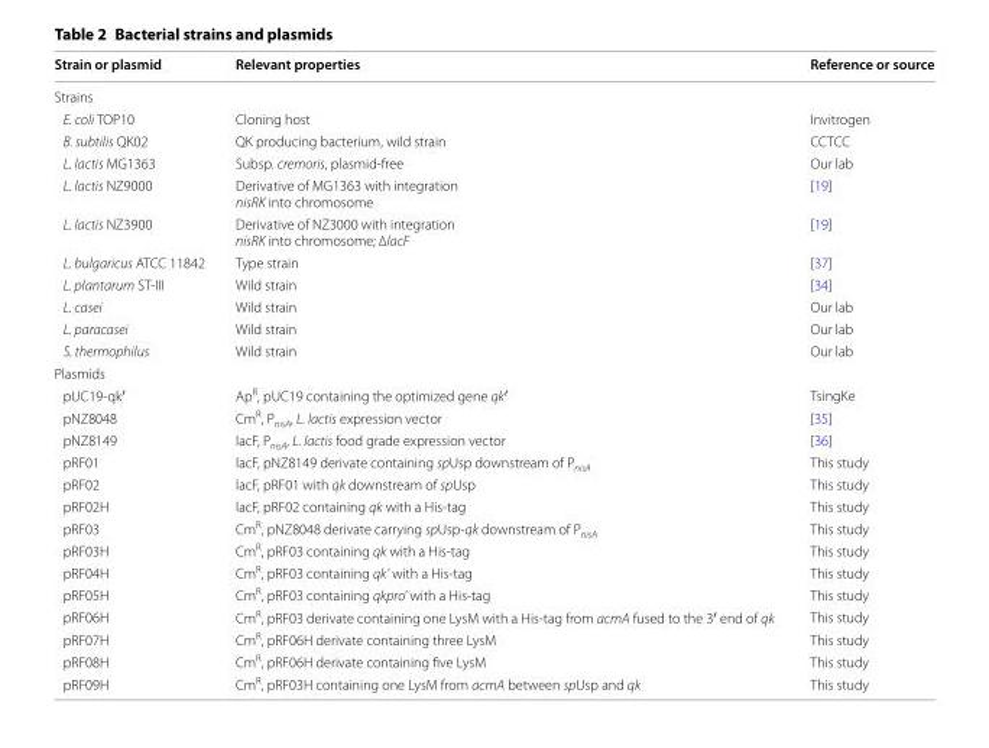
<table><thead><tr><td>Strain or plasmid</td><td>Relevant properties</td><td>Reference or source</td></tr></thead><tbody><tr><td colspan="3">Strains</td></tr><tr><td>E. coli TOP10</td><td>Cloning host</td><td>Invitrogen</td></tr><tr><td>B. subtilis QK02</td><td>QK producing bacterium, wild strain</td><td>CCTCC</td></tr><tr><td>L. lactis MG1363</td><td>Subsp. cremoris, plasmid-free</td><td>Our lab</td></tr><tr><td>L. lactis NZ9000</td><td>Derivative of MG1363 with integration nisRK into chromosome</td><td>[19]</td></tr><tr><td>L. lactis NZ3900</td><td>Derivative of NZ3000 with integration nisRK into chromosome; ∆lacF</td><td>[19]</td></tr><tr><td>L. bulgaricus ATCC 11842</td><td>Type strain</td><td>[37]</td></tr><tr><td>L. plantarum ST-III</td><td>Wild strain</td><td>[34]</td></tr><tr><td>L. casei</td><td>Wild strain</td><td>Our lab</td></tr><tr><td>L. paracasei</td><td>Wild strain</td><td>Our lab</td></tr><tr><td>S. thermophilus</td><td>Wild strain</td><td>Our lab</td></tr><tr><td colspan="3">Plasmids</td></tr><tr><td>pUC19-qk′</td><td>Ap<sup>R</sup>, pUC19 containing the optimized gene qk′</td><td>TsingKe</td></tr><tr><td>pNZ8048</td><td>Cm<sup>R</sup>, P<sub>nisA</sub>, L. lactis expression vector</td><td>[35]</td></tr><tr><td>pNZ8149</td><td>lacF, P<sub>nisA</sub>, L. lactis food grade expression vector</td><td>[36]</td></tr><tr><td>pRF01</td><td>lacF, pNZ8149 derivate containing spUsp downstream of P<sub>nisA</sub></td><td>This study</td></tr><tr><td>pRF02</td><td>lacF, pRF01 with qk downstream of spUsp</td><td>This study</td></tr><tr><td>pRF02H</td><td>lacF, pRF02 containing qk with a His-tag</td><td>This study</td></tr><tr><td>pRF03</td><td>Cm<sup>R</sup>, pNZ8048 derivate carrying spUsp-qk downstream of P<sub>nisA</sub></td><td>This study</td></tr><tr><td>pRF03H</td><td>Cm<sup>R</sup>, pRF03 containing qk with a His-tag</td><td>This study</td></tr><tr><td>pRF04H</td><td>Cm<sup>R</sup>, pRF03 containing qk’ with a His-tag</td><td>This study</td></tr><tr><td>pRF05H</td><td>Cm<sup>R</sup>, pRF03 containing qkpro’ with a His-tag</td><td>This study</td></tr><tr><td>pRF06H</td><td>Cm<sup>R</sup>, pRF03 derivate containing one LysM with a His-tag from acmA fused to the 3′ end of qk</td><td>This study</td></tr><tr><td>pRF07H</td><td>Cm<sup>R</sup>, pRF06H derivate containing three LysM</td><td>This study</td></tr><tr><td>pRF08H</td><td>Cm<sup>R</sup>, pRF06H derivate containing five LysM</td><td>This study</td></tr><tr><td>pRF09H</td><td>Cm<sup>R</sup>, pRF03H containing one LysM from acmA between spUsp and qk</td><td>This study</td></tr></tbody></table>